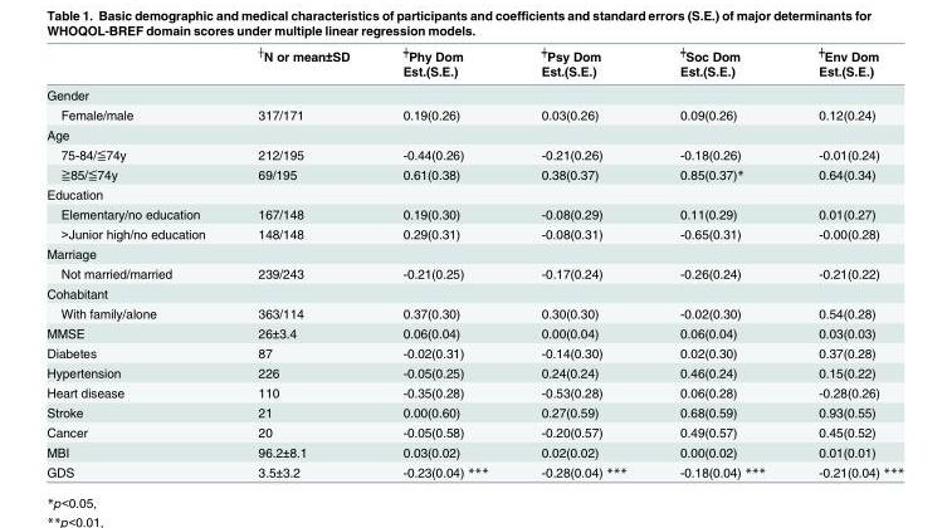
<table><thead><tr><td rowspan="2"></td><td rowspan="2"><sup>┼</sup>N or mean±SD</td><td rowspan="2"><sup>┿</sup>Phy Dom Est.(S.E.)</td><td rowspan="2"><sup>┿</sup>Psy Dom Est.(S.E.)</td><td rowspan="2"><sup>┿</sup>Soc Dom Est.(S.E.)</td><td rowspan="2"><sup>┿</sup>Env Dom Est.(S.E.)</td></tr><tr></tr></thead><tbody><tr><td colspan="6">Gender</td></tr><tr><td>Female/male</td><td>317/171</td><td>0.19(0.26)</td><td>0.03(0.26)</td><td>0.09(0.26)</td><td>0.12(0.24)</td></tr><tr><td colspan="6">Age</td></tr><tr><td>75-84/≦74y</td><td>212/195</td><td>-0.44(0.26)</td><td>-0.21(0.26)</td><td>-0.18(0.26)</td><td>-0.01(0.24)</td></tr><tr><td>≧85/≦74y</td><td>69/195</td><td>0.61(0.38)</td><td>0.38(0.37)</td><td>0.85(0.37)*</td><td>0.64(0.34)</td></tr><tr><td colspan="6">Education</td></tr><tr><td>Elementary/no education</td><td>167/148</td><td>0.19(0.30)</td><td>-0.08(0.29)</td><td>0.11(0.29)</td><td>0.01(0.27)</td></tr><tr><td>&gt;Junior high/no education</td><td>148/148</td><td>0.29(0.31)</td><td>-0.08(0.31)</td><td>-0.65(0.31)</td><td>-0.00(0.28)</td></tr><tr><td colspan="6">Marriage</td></tr><tr><td>Not married/married</td><td>239/243</td><td>-0.21(0.25)</td><td>-0.17(0.24)</td><td>-0.26(0.24)</td><td>-0.21(0.22)</td></tr><tr><td colspan="6">Cohabitant</td></tr><tr><td>With family/alone</td><td>363/114</td><td>0.37(0.30)</td><td>0.30(0.30)</td><td>-0.02(0.30)</td><td>0.54(0.28)</td></tr><tr><td>MMSE</td><td>26±3.4</td><td>0.06(0.04)</td><td>0.00(0.04)</td><td>0.06(0.04)</td><td>0.03(0.03)</td></tr><tr><td>Diabetes</td><td>87</td><td>-0.02(0.31)</td><td>-0.14(0.30)</td><td>0.02(0.30)</td><td>0.37(0.28)</td></tr><tr><td>Hypertension</td><td>226</td><td>-0.05(0.25)</td><td>0.24(0.24)</td><td>0.46(0.24)</td><td>0.15(0.22)</td></tr><tr><td>Heart disease</td><td>110</td><td>-0.35(0.28)</td><td>-0.53(0.28)</td><td>0.06(0.28)</td><td>-0.28(0.26)</td></tr><tr><td>Stroke</td><td>21</td><td>0.00(0.60)</td><td>0.27(0.59)</td><td>0.68(0.59)</td><td>0.93(0.55)</td></tr><tr><td>Cancer</td><td>20</td><td>-0.05(0.58)</td><td>-0.20(0.57)</td><td>0.49(0.57)</td><td>0.45(0.52)</td></tr><tr><td>MBI</td><td>96.2±8.1</td><td>0.03(0.02)</td><td>0.02(0.02)</td><td>0.00(0.02)</td><td>0.01(0.01)</td></tr><tr><td>GDS</td><td>3.5±3.2</td><td>-0.23(0.04) ***</td><td>-0.28(0.04) ***</td><td>-0.18(0.04) ***</td><td>-0.21(0.04) ***</td></tr></tbody></table>